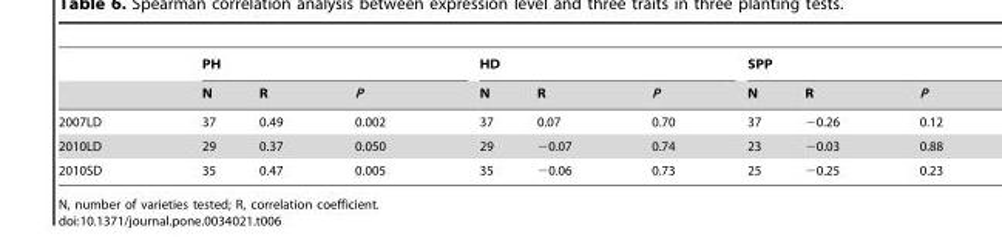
<table><thead><tr><td rowspan="2"></td><td colspan="3">PH</td><td colspan="3">HD</td><td colspan="3">SPP</td></tr><tr><td>N</td><td>R</td><td>P</td><td>N</td><td>R</td><td>P</td><td>N</td><td>R</td><td>P</td></tr></thead><tbody><tr><td>2007LD</td><td>37</td><td>0.49</td><td>0.002</td><td>37</td><td>0.07</td><td>0.70</td><td>37</td><td>−0.26</td><td>0.12</td></tr><tr><td>2010LD</td><td>29</td><td>0.37</td><td>0.050</td><td>29</td><td>−0.07</td><td>0.74</td><td>23</td><td>−0.03</td><td>0.88</td></tr><tr><td>2010SD</td><td>35</td><td>0.47</td><td>0.005</td><td>35</td><td>−0.06</td><td>0.73</td><td>25</td><td>−0.25</td><td>0.23</td></tr></tbody></table>